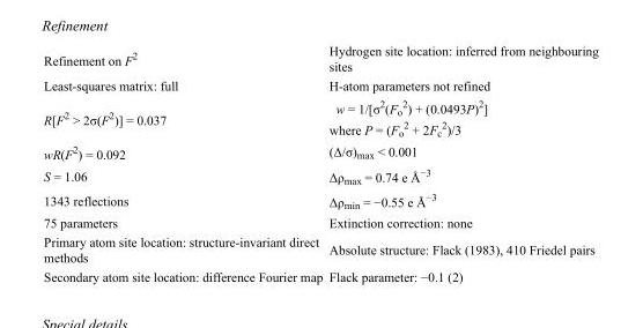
<table><tbody><tr><td>Refinement on F<sup>2</sup></td><td>Hydrogen site location: inferred from neighbouring sites</td></tr><tr><td>Least-squares matrix: full</td><td>H-atom parameters not refined</td></tr><tr><td>R[F<sup>2</sup> &gt; 2σ(F<sup>2</sup>)] = 0.037</td><td>w = 1/[σ<sup>2</sup>(F<sub>o</sub> <sup>2</sup>) + (0.0493P)<sup>2</sup>] where P = (F<sub>o</sub> <sup>2</sup> + 2F<sub>c</sub> <sup>2</sup>)/3</td></tr><tr><td>wR(F<sup>2</sup>) = 0.092</td><td>(Δ/σ)<sub>max</sub> &lt; 0.001</td></tr><tr><td>S = 1.06</td><td>Δρ<sub>max</sub> = 0.74 e Å<sup>−3</sup></td></tr><tr><td>1343 reflections</td><td>Δρ<sub>min</sub> = −0.55 e Å<sup>−3</sup></td></tr><tr><td>75 parameters</td><td>Extinction correction: none</td></tr><tr><td>Primary atom site location: structure-invariant direct methods</td><td>Absolute structure: Flack (1983), 410 Friedel pairs</td></tr><tr><td>Secondary atom site location: difference Fourier map</td><td>Flack parameter: −0.1 (2)</td></tr></tbody></table>